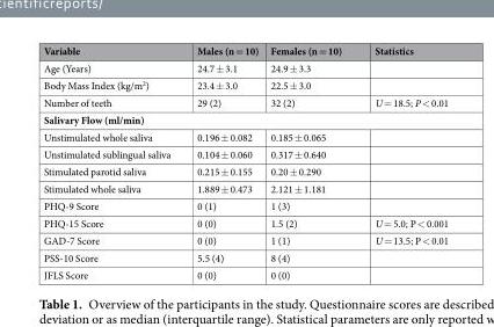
<table><thead><tr><td>Variable</td><td>Males (n = 10)</td><td>Females (n = 10)</td><td>Statistics</td></tr></thead><tbody><tr><td>Age (Years)</td><td>24.7 ± 3.1</td><td>24.9 ± 3.3</td><td></td></tr><tr><td>Body Mass Index (kg/m<sup>2</sup>)</td><td>23.4 ± 3.0</td><td>22.5 ± 3.0</td><td></td></tr><tr><td>Number of teeth</td><td>29 (2)</td><td>32 (2)</td><td>U = 18.5; P &lt; 0.01</td></tr><tr><td colspan="4">Salivary Flow (ml/min)</td></tr><tr><td>Unstimulated whole saliva</td><td>0.196 ± 0.082</td><td>0.185 ± 0.065</td><td></td></tr><tr><td>Unstimulated sublingual saliva</td><td>0.104 ± 0.060</td><td>0.317 ± 0.640</td><td></td></tr><tr><td>Stimulated parotid saliva</td><td>0.215 ± 0.155</td><td>0.20 ± 0.290</td><td></td></tr><tr><td>Stimulated whole saliva</td><td>1.889 ± 0.473</td><td>2.121 ± 1.181</td><td></td></tr><tr><td>PHQ-9 Score</td><td>0 (1)</td><td>1 (3)</td><td></td></tr><tr><td>PHQ-15 Score</td><td>0 (0)</td><td>1.5 (2)</td><td>U = 5.0; P &lt; 0.001</td></tr><tr><td>GAD-7 Score</td><td>0 (0)</td><td>1 (1)</td><td>U = 13.5; P &lt; 0.01</td></tr><tr><td>PSS-10 Score</td><td>5.5 (4)</td><td>8 (4)</td><td></td></tr><tr><td>JFLS Score</td><td>0 (0)</td><td>0 (0)</td><td></td></tr></tbody></table>